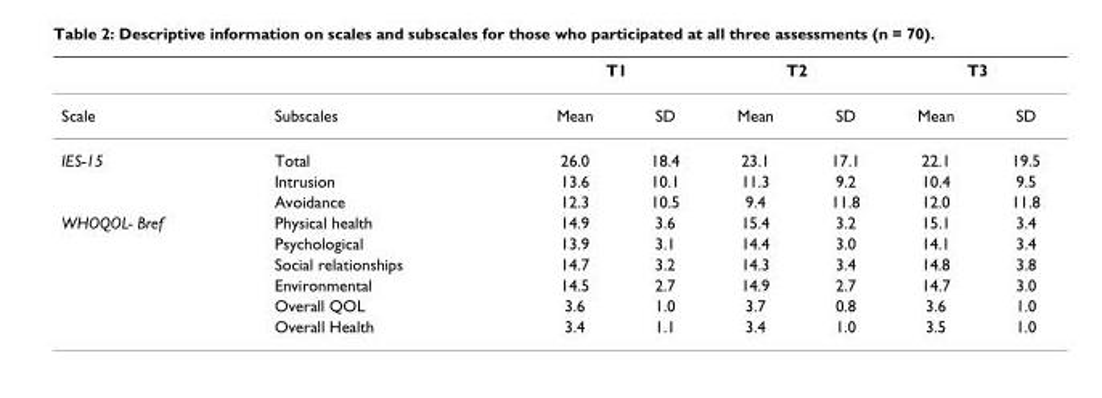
<table><thead><tr><td rowspan="2">Scale</td><td rowspan="2">Subscales</td><td colspan="2">T1</td><td colspan="2">T2</td><td colspan="2">T3</td></tr><tr><td>Mean</td><td>SD</td><td>Mean</td><td>SD</td><td>Mean</td><td>SD</td></tr></thead><tbody><tr><td rowspan="3">IES-15</td><td>Total</td><td>26.0</td><td>18.4</td><td>23.1</td><td>17.1</td><td>22.1</td><td>19.5</td></tr><tr><td>Intrusion</td><td>13.6</td><td>10.1</td><td>11.3</td><td>9.2</td><td>10.4</td><td>9.5</td></tr><tr><td>Avoidance</td><td>12.3</td><td>10.5</td><td>9.4</td><td>11.8</td><td>12.0</td><td>11.8</td></tr><tr><td rowspan="6">WHOQOL- Bref</td><td>Physical health</td><td>14.9</td><td>3.6</td><td>15.4</td><td>3.2</td><td>15.1</td><td>3.4</td></tr><tr><td>Psychological</td><td>13.9</td><td>3.1</td><td>14.4</td><td>3.0</td><td>14.1</td><td>3.4</td></tr><tr><td>Social relationships</td><td>14.7</td><td>3.2</td><td>14.3</td><td>3.4</td><td>14.8</td><td>3.8</td></tr><tr><td>Environmental</td><td>14.5</td><td>2.7</td><td>14.9</td><td>2.7</td><td>14.7</td><td>3.0</td></tr><tr><td>Overall QOL</td><td>3.6</td><td>1.0</td><td>3.7</td><td>0.8</td><td>3.6</td><td>1.0</td></tr><tr><td>Overall Health</td><td>3.4</td><td>1.1</td><td>3.4</td><td>1.0</td><td>3.5</td><td>1.0</td></tr></tbody></table>